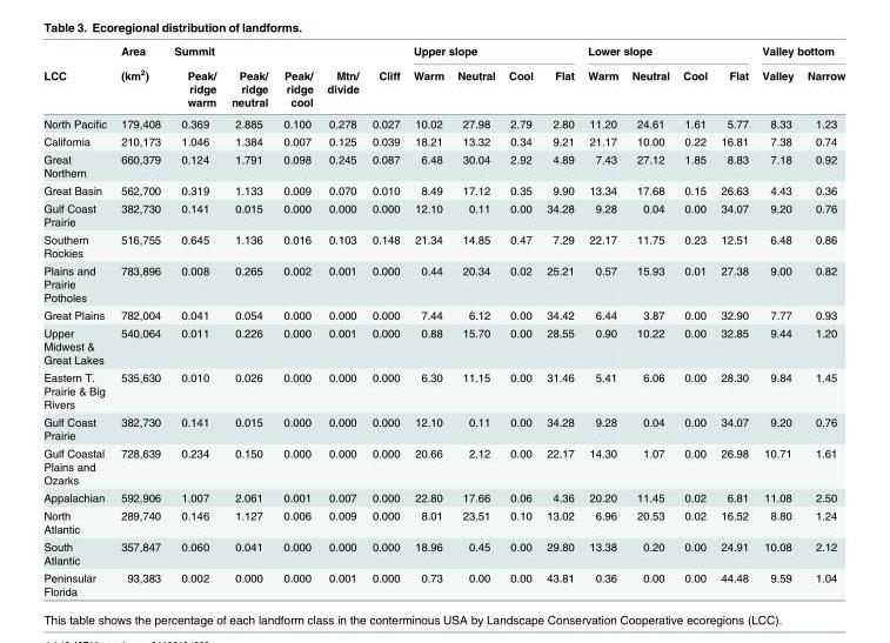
<table><thead><tr><td rowspan="2">LCC</td><td rowspan="2">Area (km<sup>2</sup>)</td><td rowspan="2">Summit Peak/ ridge warm</td><td rowspan="2">Peak/ ridge neutral</td><td rowspan="2">Peak/ ridge cool</td><td rowspan="2">Mtn/ divide</td><td rowspan="2">Cliff</td><td colspan="4">Upper slope</td><td colspan="4">Lower slope</td><td colspan="2">Valley bottom</td></tr><tr><td>Warm</td><td>Neutral</td><td>Cool</td><td>Flat</td><td>Warm</td><td>Neutral</td><td>Cool</td><td>Flat</td><td>Valley</td><td>Narrow</td></tr></thead><tbody><tr><td>North Pacific</td><td>179,408</td><td>0.369</td><td>2.885</td><td>0.100</td><td>0.278</td><td>0.027</td><td>10.02</td><td>27.98</td><td>2.79</td><td>2.80</td><td>11.20</td><td>24.61</td><td>1.61</td><td>5.77</td><td>8.33</td><td>1.23</td></tr><tr><td>California</td><td>210,173</td><td>1.046</td><td>1.384</td><td>0.007</td><td>0.125</td><td>0.039</td><td>18.21</td><td>13.32</td><td>0.34</td><td>9.21</td><td>21.17</td><td>10.00</td><td>0.22</td><td>16.81</td><td>7.38</td><td>0.74</td></tr><tr><td>Great Northern</td><td>660,379</td><td>0.124</td><td>1.791</td><td>0.098</td><td>0.245</td><td>0.087</td><td>6.48</td><td>30.04</td><td>2.92</td><td>4.89</td><td>7.43</td><td>27.12</td><td>1.85</td><td>8.83</td><td>7.18</td><td>0.92</td></tr><tr><td>Great Basin</td><td>562,700</td><td>0.319</td><td>1.133</td><td>0.009</td><td>0.070</td><td>0.010</td><td>8.49</td><td>17.12</td><td>0.35</td><td>9.90</td><td>13.34</td><td>17.68</td><td>0.15</td><td>26.63</td><td>4.43</td><td>0.36</td></tr><tr><td>Gulf Coast Prairie</td><td>382,730</td><td>0.141</td><td>0.015</td><td>0.000</td><td>0.000</td><td>0.000</td><td>12.10</td><td>0.11</td><td>0.00</td><td>34.28</td><td>9.28</td><td>0.04</td><td>0.00</td><td>34.07</td><td>9.20</td><td>0.76</td></tr><tr><td>Southern Rockies</td><td>516,755</td><td>0.645</td><td>1.136</td><td>0.016</td><td>0.103</td><td>0.148</td><td>21.34</td><td>14.85</td><td>0.47</td><td>7.29</td><td>22.17</td><td>11.75</td><td>0.23</td><td>12.51</td><td>6.48</td><td>0.86</td></tr><tr><td>Plains and Prairie Potholes</td><td>783,896</td><td>0.008</td><td>0.265</td><td>0.002</td><td>0.001</td><td>0.000</td><td>0.44</td><td>20.34</td><td>0.02</td><td>25.21</td><td>0.57</td><td>15.93</td><td>0.01</td><td>27.38</td><td>9.00</td><td>0.82</td></tr><tr><td>Great Plains</td><td>782,004</td><td>0.041</td><td>0.054</td><td>0.000</td><td>0.000</td><td>0.000</td><td>7.44</td><td>6.12</td><td>0.00</td><td>34.42</td><td>6.44</td><td>3.87</td><td>0.00</td><td>32.90</td><td>7.77</td><td>0.93</td></tr><tr><td>Upper Midwest &amp; Great Lakes</td><td>540,064</td><td>0.011</td><td>0.226</td><td>0.000</td><td>0.001</td><td>0.000</td><td>0.88</td><td>15.70</td><td>0.00</td><td>28.55</td><td>0.90</td><td>10.22</td><td>0.00</td><td>32.85</td><td>9.44</td><td>1.20</td></tr><tr><td>Eastern T. Prairie &amp; Big Rivers</td><td>535,630</td><td>0.010</td><td>0.026</td><td>0.000</td><td>0.000</td><td>0.000</td><td>6.30</td><td>11.15</td><td>0.00</td><td>31.46</td><td>5.41</td><td>6.06</td><td>0.00</td><td>28.30</td><td>9.84</td><td>1.45</td></tr><tr><td>Gulf Coast Prairie</td><td>382,730</td><td>0.141</td><td>0.015</td><td>0.000</td><td>0.000</td><td>0.000</td><td>12.10</td><td>0.11</td><td>0.00</td><td>34.28</td><td>9.28</td><td>0.04</td><td>0.00</td><td>34.07</td><td>9.20</td><td>0.76</td></tr><tr><td>Gulf Coastal Plains and Ozarks</td><td>728,639</td><td>0.234</td><td>0.150</td><td>0.000</td><td>0.000</td><td>0.000</td><td>20.66</td><td>2.12</td><td>0.00</td><td>22.17</td><td>14.30</td><td>1.07</td><td>0.00</td><td>26.98</td><td>10.71</td><td>1.61</td></tr><tr><td>Appalachian</td><td>592,906</td><td>1.007</td><td>2.061</td><td>0.001</td><td>0.007</td><td>0.000</td><td>22.80</td><td>17.66</td><td>0.06</td><td>4.36</td><td>20.20</td><td>11.45</td><td>0.02</td><td>6.81</td><td>11.08</td><td>2.50</td></tr><tr><td>North Atlantic</td><td>289,740</td><td>0.146</td><td>1.127</td><td>0.006</td><td>0.009</td><td>0.000</td><td>8.01</td><td>23.51</td><td>0.10</td><td>13.02</td><td>6.96</td><td>20.53</td><td>0.02</td><td>16.52</td><td>8.80</td><td>1.24</td></tr><tr><td>South Atlantic</td><td>357,847</td><td>0.060</td><td>0.041</td><td>0.000</td><td>0.000</td><td>0.000</td><td>18.96</td><td>0.45</td><td>0.00</td><td>29.80</td><td>13.38</td><td>0.20</td><td>0.00</td><td>24.91</td><td>10.08</td><td>2.12</td></tr><tr><td>Peninsular Florida</td><td>93,383</td><td>0.002</td><td>0.000</td><td>0.000</td><td>0.001</td><td>0.000</td><td>0.73</td><td>0.00</td><td>0.00</td><td>43.81</td><td>0.36</td><td>0.00</td><td>0.00</td><td>44.48</td><td>9.59</td><td>1.04</td></tr></tbody></table>